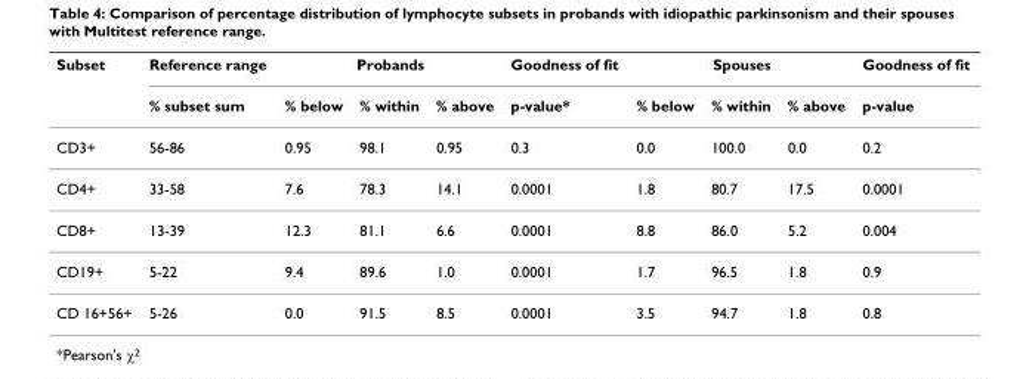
<table><thead><tr><td rowspan="2">Subset</td><td rowspan="2">Reference range % subset sum</td><td colspan="3">Probands</td><td rowspan="2">Goodness of fit p-value*</td><td colspan="3">Spouses</td><td rowspan="2">Goodness of fit p-value</td></tr><tr><td>% below</td><td>% within</td><td>% above</td><td>% below</td><td>% within</td><td>% above</td></tr></thead><tbody><tr><td>CD3+</td><td>56-86</td><td>0.95</td><td>98.1</td><td>0.95</td><td>0.3</td><td>0.0</td><td>100.0</td><td>0.0</td><td>0.2</td></tr><tr><td>CD4+</td><td>33-58</td><td>7.6</td><td>78.3</td><td>14.1</td><td>0.0001</td><td>1.8</td><td>80.7</td><td>17.5</td><td>0.0001</td></tr><tr><td>CD8+</td><td>13-39</td><td>12.3</td><td>81.1</td><td>6.6</td><td>0.0001</td><td>8.8</td><td>86.0</td><td>5.2</td><td>0.004</td></tr><tr><td>CD19+</td><td>5-22</td><td>9.4</td><td>89.6</td><td>1.0</td><td>0.0001</td><td>1.7</td><td>96.5</td><td>1.8</td><td>0.9</td></tr><tr><td>CD 16+56+</td><td>5-26</td><td>0.0</td><td>91.5</td><td>8.5</td><td>0.0001</td><td>3.5</td><td>94.7</td><td>1.8</td><td>0.8</td></tr></tbody></table>